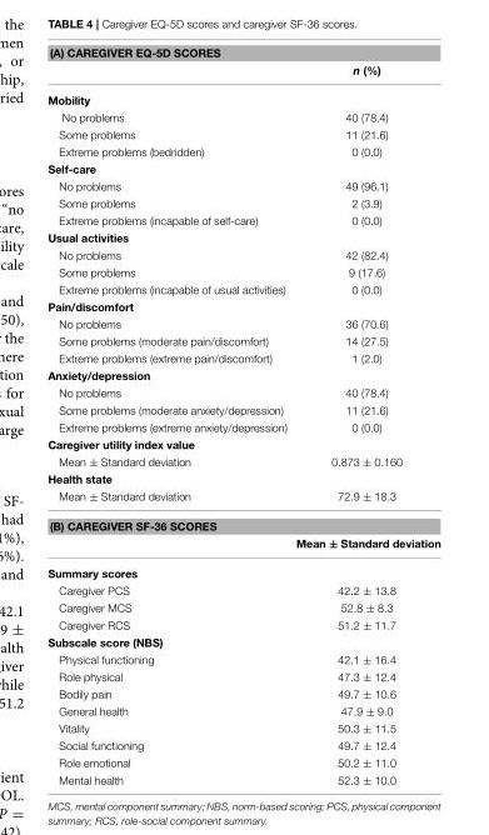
<table><thead><tr><td colspan="2">(A) CAREGIVER EQ-5D SCORES</td></tr><tr><td></td><td>n (%)</td></tr></thead><tbody><tr><td colspan="2">Mobility</td></tr><tr><td>No problems</td><td>40 (78.4)</td></tr><tr><td>Some problems</td><td>11 (21.6)</td></tr><tr><td>Extreme problems (bedridden)</td><td>0 (0.0)</td></tr><tr><td colspan="2">Self-care</td></tr><tr><td>No problems</td><td>49 (96.1)</td></tr><tr><td>Some problems</td><td>2 (3.9)</td></tr><tr><td>Extreme problems (incapable of self-care)</td><td>0 (0.0)</td></tr><tr><td colspan="2">Usual activities</td></tr><tr><td>No problems</td><td>42 (82.4)</td></tr><tr><td>Some problems</td><td>9 (17.6)</td></tr><tr><td>Extreme problems (incapable of usual activities)</td><td>0 (0.0)</td></tr><tr><td colspan="2">Pain/discomfort</td></tr><tr><td>No problems</td><td>36 (70.6)</td></tr><tr><td>Some problems (moderate pain/discomfort)</td><td>14 (27.5)</td></tr><tr><td>Extreme problems (extreme pain/discomfort)</td><td>1 (2.0)</td></tr><tr><td colspan="2">Anxiety/depression</td></tr><tr><td>No problems</td><td>40 (78.4)</td></tr><tr><td>Some problems (moderate anxiety/depression)</td><td>11 (21.6)</td></tr><tr><td>Extreme problems (extreme anxiety/depression)</td><td>0 (0.0)</td></tr><tr><td colspan="2">Caregiver utility index value</td></tr><tr><td>Mean ± Standard deviation</td><td>0.873 ± 0.160</td></tr><tr><td colspan="2">Health state</td></tr><tr><td>Mean ± Standard deviation</td><td>72.9 ± 18.3</td></tr><tr><td colspan="2">(B) CAREGIVER SF-36 SCORES</td></tr><tr><td></td><td>Mean ± Standard deviation</td></tr><tr><td colspan="2">Summary scores</td></tr><tr><td>Caregiver PCS</td><td>42.2 ± 13.8</td></tr><tr><td>Caregiver MCS</td><td>52.8 ± 8.3</td></tr><tr><td>Caregiver RCS</td><td>51.2 ± 11.7</td></tr><tr><td colspan="2">Subscale score (NBS)</td></tr><tr><td>Physical functioning</td><td>42.1 ± 16.4</td></tr><tr><td>Role physical</td><td>47.3 ± 12.4</td></tr><tr><td>Bodily pain</td><td>49.7 ± 10.6</td></tr><tr><td>General health</td><td>47.9 ± 9.0</td></tr><tr><td>Vitality</td><td>50.3 ± 11.5</td></tr><tr><td>Social functioning</td><td>49.7 ± 12.4</td></tr><tr><td>Role emotional</td><td>50.2 ± 11.0</td></tr><tr><td>Mental health</td><td>52.3 ± 10.0</td></tr></tbody></table>